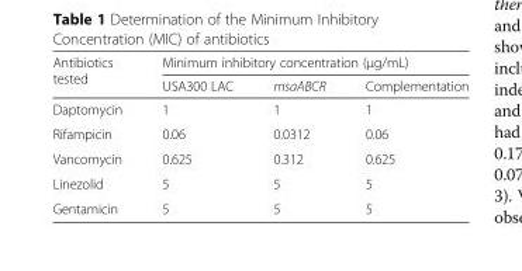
<table><thead><tr><td rowspan="2">Antibiotics tested</td><td colspan="3">Minimum inhibitory concentration (μg/mL)</td></tr><tr><td>USA300 LAC</td><td>msaABCR</td><td>Complementation</td></tr></thead><tbody><tr><td>Daptomycin</td><td>1</td><td>1</td><td>1</td></tr><tr><td>Rifampicin</td><td>0.06</td><td>0.0312</td><td>0.06</td></tr><tr><td>Vancomycin</td><td>0.625</td><td>0.312</td><td>0.625</td></tr><tr><td>Linezolid</td><td>5</td><td>5</td><td>5</td></tr><tr><td>Gentamicin</td><td>5</td><td>5</td><td>5</td></tr></tbody></table>